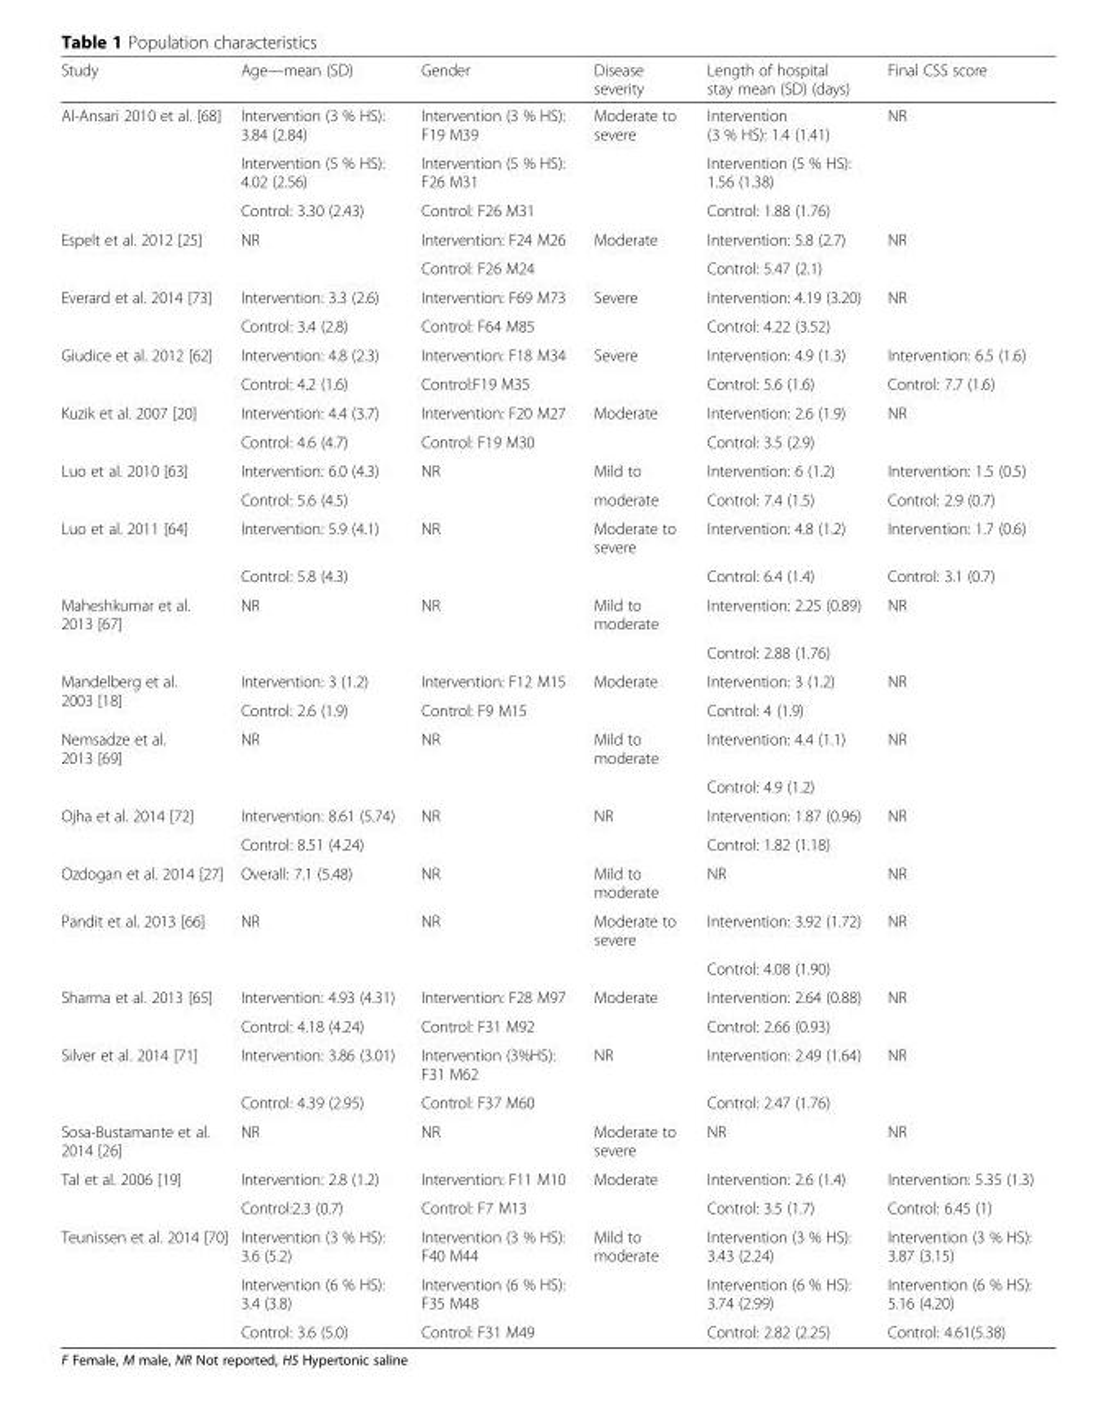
<table><thead><tr><td>Study</td><td>Age—mean (SD)</td><td>Gender</td><td>Disease severity</td><td>Length of hospital stay mean (SD) (days)</td><td>Final CSS score</td></tr></thead><tbody><tr><td rowspan="3">Al-Ansari 2010 et al. [68]</td><td>Intervention (3 % HS): 3.84 (2.84)</td><td>Intervention (3 % HS): F19 M39</td><td>Moderate to severe</td><td>Intervention (3 % HS): 1.4 (1.41)</td><td rowspan="3">NR</td></tr><tr><td>Intervention (5 % HS): 4.02 (2.56)</td><td>Intervention (5 % HS): F26 M31</td><td></td><td>Intervention (5 % HS): 1.56 (1.38)</td></tr><tr><td>Control: 3.30 (2.43)</td><td>Control: F26 M31</td><td></td><td>Control: 1.88 (1.76)</td></tr><tr><td rowspan="2">Espelt et al. 2012 [25]</td><td rowspan="2">NR</td><td>Intervention: F24 M26</td><td>Moderate</td><td>Intervention: 5.8 (2.7)</td><td rowspan="2">NR</td></tr><tr><td>Control: F26 M24</td><td></td><td>Control: 5.47 (2.1)</td></tr><tr><td rowspan="2">Everard et al. 2014 [73]</td><td>Intervention: 3.3 (2.6)</td><td>Intervention: F69 M73</td><td>Severe</td><td>Intervention: 4.19 (3.20)</td><td rowspan="2">NR</td></tr><tr><td>Control: 3.4 (2.8)</td><td>Control: F64 M85</td><td></td><td>Control: 4.22 (3.52)</td></tr><tr><td rowspan="2">Giudice et al. 2012 [62]</td><td>Intervention: 4.8 (2.3)</td><td>Intervention: F18 M34</td><td>Severe</td><td>Intervention: 4.9 (1.3)</td><td>Intervention: 6.5 (1.6)</td></tr><tr><td>Control: 4.2 (1.6)</td><td>Control:F19 M35</td><td></td><td>Control: 5.6 (1.6)</td><td>Control: 7.7 (1.6)</td></tr><tr><td rowspan="2">Kuzik et al. 2007 [20]</td><td>Intervention: 4.4 (3.7)</td><td>Intervention: F20 M27</td><td>Moderate</td><td>Intervention: 2.6 (1.9)</td><td rowspan="2">NR</td></tr><tr><td>Control: 4.6 (4.7)</td><td>Control: F19 M30</td><td></td><td>Control: 3.5 (2.9)</td></tr><tr><td rowspan="2">Luo et al. 2010 [63]</td><td>Intervention: 6.0 (4.3)</td><td>NR</td><td>Mild to</td><td>Intervention: 6 (1.2)</td><td>Intervention: 1.5 (0.5)</td></tr><tr><td>Control: 5.6 (4.5)</td><td></td><td>moderate</td><td>Control: 7.4 (1.5)</td><td>Control: 2.9 (0.7)</td></tr><tr><td rowspan="2">Luo et al. 2011 [64]</td><td>Intervention: 5.9 (4.1)</td><td>NR</td><td>Moderate to severe</td><td>Intervention: 4.8 (1.2)</td><td>Intervention: 1.7 (0.6)</td></tr><tr><td>Control: 5.8 (4.3)</td><td></td><td></td><td>Control: 6.4 (1.4)</td><td>Control: 3.1 (0.7)</td></tr><tr><td rowspan="2">Maheshkumar et al. 2013 [67]</td><td>NR</td><td>NR</td><td>Mild to moderate</td><td>Intervention: 2.25 (0.89)</td><td rowspan="2">NR</td></tr><tr><td></td><td></td><td></td><td>Control: 2.88 (1.76)</td></tr><tr><td rowspan="2">Mandelberg et al. 2003 [18]</td><td>Intervention: 3 (1.2)</td><td>Intervention: F12 M15</td><td>Moderate</td><td>Intervention: 3 (1.2)</td><td rowspan="2">NR</td></tr><tr><td>Control: 2.6 (1.9)</td><td>Control: F9 M15</td><td></td><td>Control: 4 (1.9)</td></tr><tr><td rowspan="2">Nemsadze et al. 2013 [69]</td><td>NR</td><td>NR</td><td>Mild to moderate</td><td>Intervention: 4.4 (1.1)</td><td rowspan="2">NR</td></tr><tr><td></td><td></td><td></td><td>Control: 4.9 (1.2)</td></tr><tr><td rowspan="2">Ojha et al. 2014 [72]</td><td>Intervention: 8.61 (5.74)</td><td>NR</td><td>NR</td><td>Intervention: 1.87 (0.96)</td><td rowspan="2">NR</td></tr><tr><td>Control: 8.51 (4.24)</td><td></td><td></td><td>Control: 1.82 (1.18)</td></tr><tr><td>Ozdogan et al. 2014 [27]</td><td>Overall: 7.1 (5.48)</td><td>NR</td><td>Mild to moderate</td><td>NR</td><td>NR</td></tr><tr><td rowspan="2">Pandit et al. 2013 [66]</td><td>NR</td><td>NR</td><td>Moderate to severe</td><td>Intervention: 3.92 (1.72)</td><td rowspan="2">NR</td></tr><tr><td></td><td></td><td></td><td>Control: 4.08 (1.90)</td></tr><tr><td rowspan="2">Sharma et al. 2013 [65]</td><td>Intervention: 4.93 (4.31)</td><td>Intervention: F28 M97</td><td>Moderate</td><td>Intervention: 2.64 (0.88)</td><td rowspan="2">NR</td></tr><tr><td>Control: 4.18 (4.24)</td><td>Control: F31 M92</td><td></td><td>Control: 2.66 (0.93)</td></tr><tr><td rowspan="2">Silver et al. 2014 [71]</td><td>Intervention: 3.86 (3.01)</td><td>Intervention (3%HS): F31 M62</td><td>NR</td><td>Intervention: 2.49 (1.64)</td><td rowspan="2">NR</td></tr><tr><td>Control: 4.39 (2.95)</td><td>Control: F37 M60</td><td></td><td>Control: 2.47 (1.76)</td></tr><tr><td>Sosa-Bustamante et al. 2014 [26]</td><td>NR</td><td>NR</td><td>Moderate to severe</td><td>NR</td><td>NR</td></tr><tr><td rowspan="2">Tal et al. 2006 [19]</td><td>Intervention: 2.8 (1.2)</td><td>Intervention: F11 M10</td><td>Moderate</td><td>Intervention: 2.6 (1.4)</td><td>Intervention: 5.35 (1.3)</td></tr><tr><td>Control:2.3 (0.7)</td><td>Control: F7 M13</td><td></td><td>Control: 3.5 (1.7)</td><td>Control: 6.45 (1)</td></tr><tr><td rowspan="3">Teunissen et al. 2014 [70]</td><td>Intervention (3 % HS): 3.6 (5.2)</td><td>Intervention (3 % HS): F40 M44</td><td>Mild to moderate</td><td>Intervention (3 % HS): 3.43 (2.24)</td><td>Intervention (3 % HS): 3.87 (3.15)</td></tr><tr><td>Intervention (6 % HS): 3.4 (3.8)</td><td>Intervention (6 % HS): F35 M48</td><td></td><td>Intervention (6 % HS): 3.74 (2.99)</td><td>Intervention (6 % HS): 5.16 (4.20)</td></tr><tr><td>Control: 3.6 (5.0)</td><td>Control: F31 M49</td><td></td><td>Control: 2.82 (2.25)</td><td>Control: 4.61(5.38)</td></tr></tbody></table>